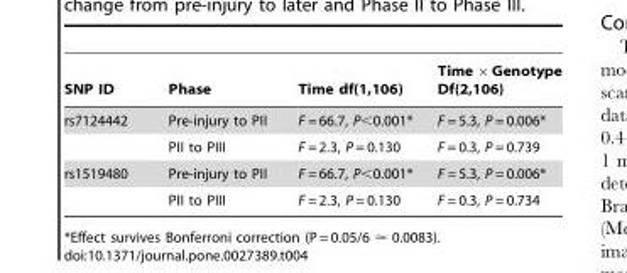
<table><thead><tr><td>SNP ID</td><td>Phase</td><td>Time df(1,106)</td><td>Time ×Genotype Df(2,106)</td></tr></thead><tbody><tr><td rowspan="2">rs7124442</td><td>Pre-injury to PII</td><td>F = 66.7, P&lt;0.001*</td><td>F = 5.3, P = 0.006*</td></tr><tr><td>PII to PIII</td><td>F = 2.3, P = 0.130</td><td>F = 0.3, P = 0.739</td></tr><tr><td rowspan="2">rs1519480</td><td>Pre-injury to PII</td><td>F = 66.7, P&lt;0.001*</td><td>F = 5.3, P = 0.006*</td></tr><tr><td>PII to PIII</td><td>F = 2.3, P = 0.130</td><td>F = 0.3, P = 0.734</td></tr></tbody></table>